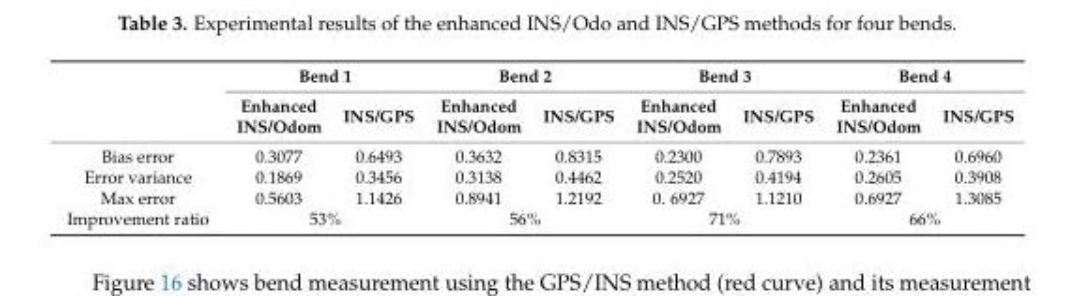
<table><thead><tr><td rowspan="2"></td><td colspan="2">Bend 1</td><td colspan="2">Bend 2</td><td colspan="2">Bend 3</td><td colspan="2">Bend 4</td></tr><tr><td>Enhanced INS/Odom</td><td>INS/GPS</td><td>Enhanced INS/Odom</td><td>INS/GPS</td><td>Enhanced INS/Odom</td><td>INS/GPS</td><td>Enhanced INS/Odom</td><td>INS/GPS</td></tr></thead><tbody><tr><td>Bias error</td><td>0.3077</td><td>0.6493</td><td>0.3632</td><td>0.8315</td><td>0.2300</td><td>0.7893</td><td>0.2361</td><td>0.6960</td></tr><tr><td>Error variance</td><td>0.1869</td><td>0.3456</td><td>0.3138</td><td>0.4462</td><td>0.2520</td><td>0.4194</td><td>0.2605</td><td>0.3908</td></tr><tr><td>Max error</td><td>0.5603</td><td>1.1426</td><td>0.8941</td><td>1.2192</td><td>0. 6927</td><td>1.1210</td><td>0.6927</td><td>1.3085</td></tr><tr><td>Improvement ratio</td><td colspan="2">53%</td><td colspan="2">56%</td><td colspan="2">71%</td><td colspan="2">66%</td></tr></tbody></table>